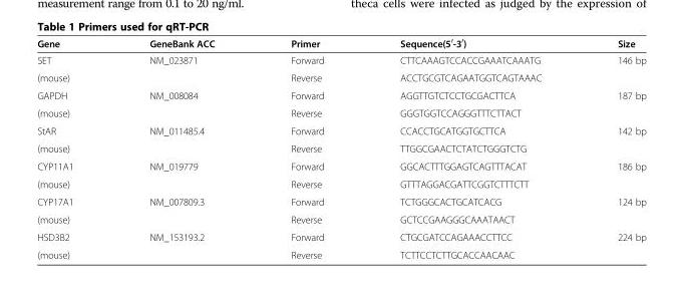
<table><thead><tr><td>Gene</td><td>GeneBank ACC</td><td>Primer</td><td>Sequence(5<sup>′</sup>-3<sup>′</sup>)</td><td>Size</td></tr></thead><tbody><tr><td>SET</td><td>NM_023871</td><td>Forward</td><td>CTTCAAAGTCCACCGAAATCAAATG</td><td>146 bp</td></tr><tr><td>(mouse)</td><td></td><td>Reverse</td><td>ACCTGCGTCAGAATGGTCAGTAAAC</td><td></td></tr><tr><td>GAPDH</td><td>NM_008084</td><td>Forward</td><td>AGGTTGTCTCCTGCGACTTCA</td><td>187 bp</td></tr><tr><td>(mouse)</td><td></td><td>Reverse</td><td>GGGTGGTCCAGGGTTTCTTACT</td><td></td></tr><tr><td>StAR</td><td>NM_011485.4</td><td>Forward</td><td>CCACCTGCATGGTGCTTCA</td><td>142 bp</td></tr><tr><td>(mouse)</td><td></td><td>Reverse</td><td>TTGGCGAACTCTATCTGGGTCTG</td><td></td></tr><tr><td>CYP11A1</td><td>NM_019779</td><td>Forward</td><td>GGCACTTTGGAGTCAGTTTACAT</td><td>186 bp</td></tr><tr><td>(mouse)</td><td></td><td>Reverse</td><td>GTTTAGGACGATTCGGTCTTTCTT</td><td></td></tr><tr><td>CYP17A1</td><td>NM_007809.3</td><td>Forward</td><td>TCTGGGCACTGCATCACG</td><td>124 bp</td></tr><tr><td>(mouse)</td><td></td><td>Reverse</td><td>GCTCCGAAGGGCAAATAACT</td><td></td></tr><tr><td>HSD3B2</td><td>NM_153193.2</td><td>Forward</td><td>CTGCGATCCAGAAACCTTCC</td><td>224 bp</td></tr><tr><td>(mouse)</td><td></td><td>Reverse</td><td>TCTTCCTCTTGCACCAACAAC</td><td></td></tr></tbody></table>